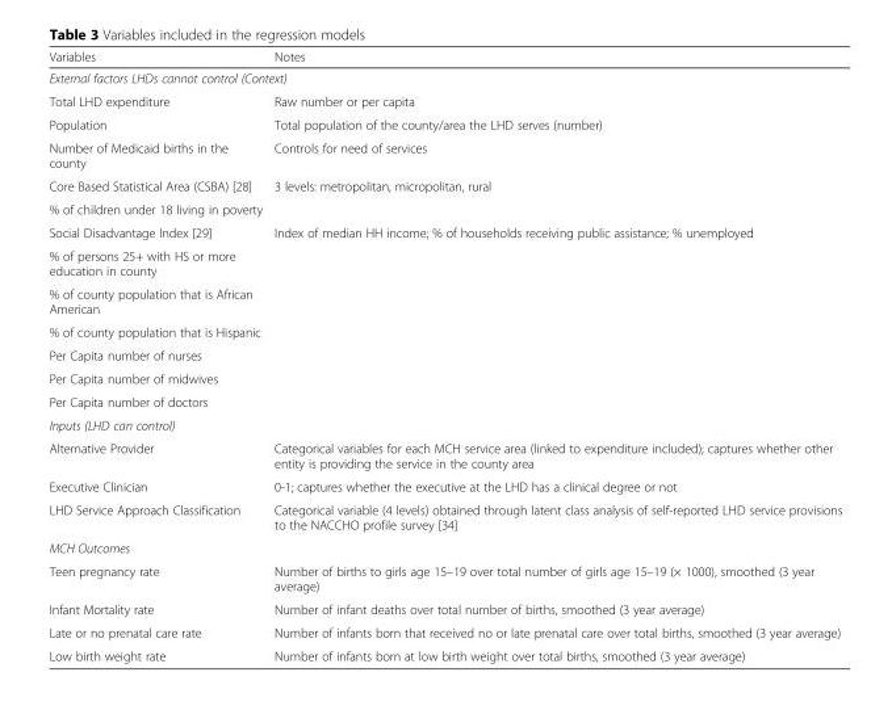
<table><thead><tr><td>Variables</td><td>Notes</td></tr></thead><tbody><tr><td colspan="2">External factors LHDs cannot control (Context)</td></tr><tr><td>Total LHD expenditure</td><td>Raw number or per capita</td></tr><tr><td>Population</td><td>Total population of the county/area the LHD serves (number)</td></tr><tr><td>Number of Medicaid births in the county</td><td>Controls for need of services</td></tr><tr><td>Core Based Statistical Area (CSBA) [28]</td><td>3 levels: metropolitan, micropolitan, rural</td></tr><tr><td colspan="2">% of children under 18 living in poverty</td></tr><tr><td>Social Disadvantage Index [29]</td><td>Index of median HH income; % of households receiving public assistance; % unemployed</td></tr><tr><td colspan="2">% of persons 25+ with HS or more education in county</td></tr><tr><td colspan="2">% of county population that is African American</td></tr><tr><td colspan="2">% of county population that is Hispanic</td></tr><tr><td colspan="2">Per Capita number of nurses</td></tr><tr><td colspan="2">Per Capita number of midwives</td></tr><tr><td colspan="2">Per Capita number of doctors</td></tr><tr><td colspan="2">Inputs (LHD can control)</td></tr><tr><td>Alternative Provider</td><td>Categorical variables for each MCH service area (linked to expenditure included); captures whether other entity is providing the service in the county area</td></tr><tr><td>Executive Clinician</td><td>0-1; captures whether the executive at the LHD has a clinical degree or not</td></tr><tr><td>LHD Service Approach Classification</td><td>Categorical variable (4 levels) obtained through latent class analysis of self-reported LHD service provisions to the NACCHO profile survey [34]</td></tr><tr><td colspan="2">MCH Outcomes</td></tr><tr><td>Teen pregnancy rate</td><td>Number of births to girls age 15–19 over total number of girls age 15–19 (× 1000), smoothed (3 year average)</td></tr><tr><td>Infant Mortality rate</td><td>Number of infant deaths over total number of births, smoothed (3 year average)</td></tr><tr><td>Late or no prenatal care rate</td><td>Number of infants born that received no or late prenatal care over total births, smoothed (3 year average)</td></tr><tr><td>Low birth weight rate</td><td>Number of infants born at low birth weight over total births, smoothed (3 year average)</td></tr></tbody></table>